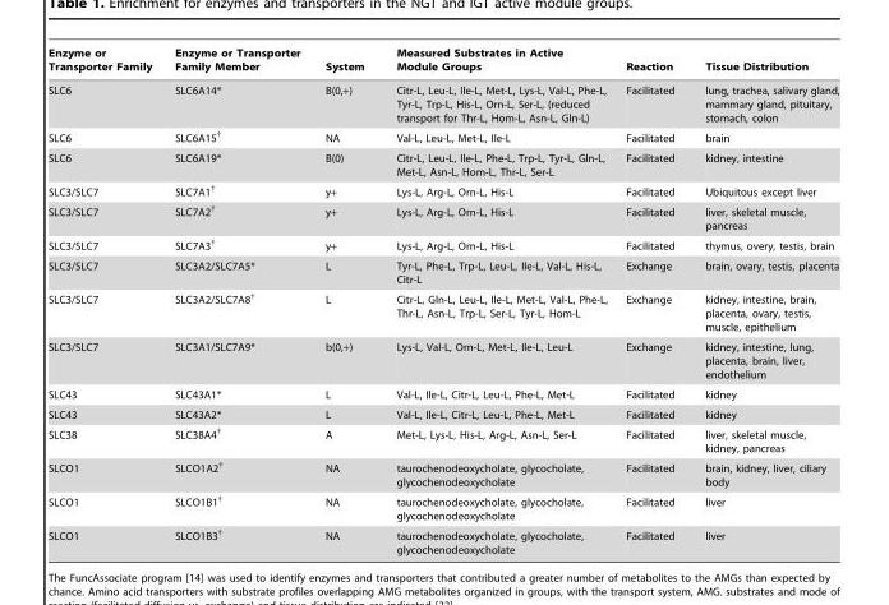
<table><thead><tr><td>Enzyme or Transporter Family</td><td>Enzyme or Transporter Family Member</td><td>System</td><td>Measured Substrates in Active Module Groups</td><td>Reaction</td><td>Tissue Distribution</td></tr></thead><tbody><tr><td>SLC6</td><td>SLC6A14*</td><td>B(0,+)</td><td>Citr-L, Leu-L, Ile-L, Met-L, Lys-L, Val-L, Phe-L, Tyr-L, Trp-L, His-L, Orn-L, Ser-L, (reduced transport for Thr-L, Hom-L, Asn-L, Gln-L)</td><td>Facilitated</td><td>lung, trachea, salivary gland, mammary gland, pituitary, stomach, colon</td></tr><tr><td>SLC6</td><td>SLC6A15†</td><td>NA</td><td>Val-L, Leu-L, Met-L, Ile-L</td><td>Facilitated</td><td>brain</td></tr><tr><td>SLC6</td><td>SLC6A19*</td><td>B(0)</td><td>Citr-L, Leu-L, Ile-L, Phe-L, Trp-L, Tyr-L, Gln-L, Met-L, Asn-L, Hom-L, Thr-L, Ser-L</td><td>Facilitated</td><td>kidney, intestine</td></tr><tr><td>SLC3/SLC7</td><td>SLC7A1†</td><td>y+</td><td>Lys-L, Arg-L, Orn-L, His-L</td><td>Facilitated</td><td>Ubiquitous except liver</td></tr><tr><td>SLC3/SLC7</td><td>SLC7A2†</td><td>y+</td><td>Lys-L, Arg-L, Orn-L, His-L</td><td>Facilitated</td><td>liver, skeletal muscle, pancreas</td></tr><tr><td>SLC3/SLC7</td><td>SLC7A3†</td><td>y+</td><td>Lys-L, Arg-L, Orn-L, His-L</td><td>Facilitated</td><td>thymus, overy, testis, brain</td></tr><tr><td>SLC3/SLC7</td><td>SLC3A2/SLC7A5*</td><td>L</td><td>Tyr-L, Phe-L, Trp-L, Leu-L, Ile-L, Val-L, His-L, Citr-L</td><td>Exchange</td><td>brain, ovary, testis, placenta</td></tr><tr><td>SLC3/SLC7</td><td>SLC3A2/SLC7A8†</td><td>L</td><td>Citr-L, Gln-L, Leu-L, Ile-L, Met-L, Val-L, Phe-L, Thr-L, Asn-L, Trp-L, Ser-L, Tyr-L, Hom-L</td><td>Exchange</td><td>kidney, intestine, brain, placenta, ovary, testis, muscle, epithelium</td></tr><tr><td>SLC3/SLC7</td><td>SLC3A1/SLC7A9*</td><td>b(0,+)</td><td>Lys-L, Val-L, Orn-L, Met-L, Ile-L, Leu-L</td><td>Exchange</td><td>kidney, intestine, lung, placenta, brain, liver, endothelium</td></tr><tr><td>SLC43</td><td>SLC43A1*</td><td>L</td><td>Val-L, Ile-L, Citr-L, Leu-L, Phe-L, Met-L</td><td>Facilitated</td><td>kidney</td></tr><tr><td>SLC43</td><td>SLC43A2*</td><td>L</td><td>Val-L, Ile-L, Citr-L, Leu-L, Phe-L, Met-L</td><td>Facilitated</td><td>kidney</td></tr><tr><td>SLC38</td><td>SLC38A4†</td><td>A</td><td>Met-L, Lys-L, His-L, Arg-L, Asn-L, Ser-L</td><td>Facilitated</td><td>liver, skeletal muscle, kidney, pancreas</td></tr><tr><td>SLCO1</td><td>SLCO1A2†</td><td>NA</td><td>taurochenodeoxycholate, glycocholate, glycochenodeoxycholate</td><td>Facilitated</td><td>brain, kidney, liver, ciliary body</td></tr><tr><td>SLCO1</td><td>SLCO1B1†</td><td>NA</td><td>taurochenodeoxycholate, glycocholate, glycochenodeoxycholate</td><td>Facilitated</td><td>liver</td></tr><tr><td>SLCO1</td><td>SLCO1B3†</td><td>NA</td><td>taurochenodeoxycholate, glycocholate, glycochenodeoxycholate</td><td>Facilitated</td><td>liver</td></tr></tbody></table>